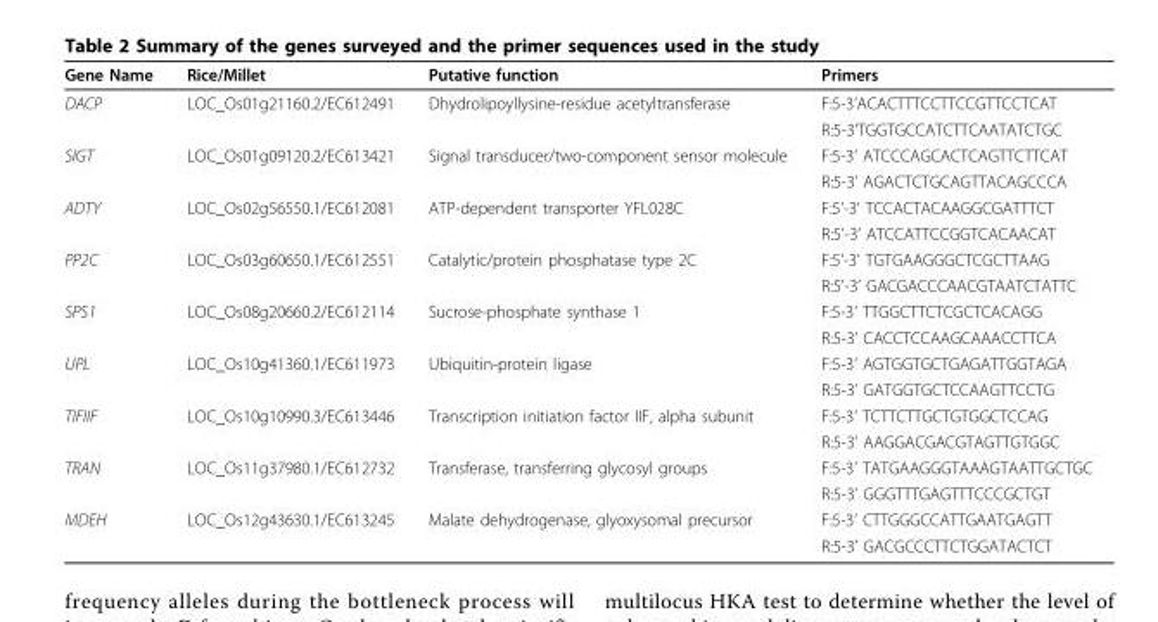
<table><thead><tr><td>Gene Name</td><td>Rice/Millet</td><td>Putative function</td><td>Primers</td></tr></thead><tbody><tr><td rowspan="2">DACP</td><td>LOC_Os01g21160.2/EC612491</td><td>Dhydrolipoyllysine-residue acetyltransferase</td><td>F:5-3’ACACTTTCCTTCCGTTCCTCAT</td></tr><tr><td></td><td></td><td>R:5-3’TGGTGCCATCTTCAATATCTGC</td></tr><tr><td rowspan="2">SIGT</td><td>LOC_Os01g09120.2/EC613421</td><td>Signal transducer/two-component sensor molecule</td><td>F:5-3’ ATCCCAGCACTCAGTTCTTCAT</td></tr><tr><td></td><td></td><td>R:5-3’ AGACTCTGCAGTTACAGCCCA</td></tr><tr><td rowspan="2">ADTY</td><td>LOC_Os02g56550.1/EC612081</td><td>ATP-dependent transporter YFL028C</td><td>F:5’-3’ TCCACTACAAGGCGATTTCT</td></tr><tr><td></td><td></td><td>R:5’-3’ ATCCATTCCGGTCACAACAT</td></tr><tr><td rowspan="2">PP2C</td><td>LOC_Os03g60650.1/EC612551</td><td>Catalytic/protein phosphatase type 2C</td><td>F:5’-3’ TGTGAAGGGCTCGCTTAAG</td></tr><tr><td></td><td></td><td>R:5’-3’ GACGACCCAACGTAATCTATTC</td></tr><tr><td rowspan="2">SPS1</td><td>LOC_Os08g20660.2/EC612114</td><td>Sucrose-phosphate synthase 1</td><td>F:5-3’ TTGGCTTCTCGCTCACAGG</td></tr><tr><td></td><td></td><td>R:5-3’ CACCTCCAAGCAAACCTTCA</td></tr><tr><td rowspan="2">UPL</td><td>LOC_Os10g41360.1/EC611973</td><td>Ubiquitin-protein ligase</td><td>F:5-3’ AGTGGTGCTGAGATTGGTAGA</td></tr><tr><td></td><td></td><td>R:5-3’ GATGGTGCTCCAAGTTCCTG</td></tr><tr><td rowspan="2">TIFIIF</td><td>LOC_Os10g10990.3/EC613446</td><td>Transcription initiation factor IIF, alpha subunit</td><td>F:5-3’ TCTTCTTGCTGTGGCTCCAG</td></tr><tr><td></td><td></td><td>R:5-3’ AAGGACGACGTAGTTGTGGC</td></tr><tr><td rowspan="2">TRAN</td><td>LOC_Os11g37980.1/EC612732</td><td>Transferase, transferring glycosyl groups</td><td>F:5-3’ TATGAAGGGTAAAGTAATTGCTGC</td></tr><tr><td></td><td></td><td>R:5-3’ GGGTTTGAGTTTCCCGCTGT</td></tr><tr><td rowspan="2">MDEH</td><td>LOC_Os12g43630.1/EC613245</td><td>Malate dehydrogenase, glyoxysomal precursor</td><td>F:5-3’ CTTGGGCCATTGAATGAGTT</td></tr><tr><td></td><td></td><td>R:5-3’ GACGCCCTTCTGGATACTCT</td></tr></tbody></table>